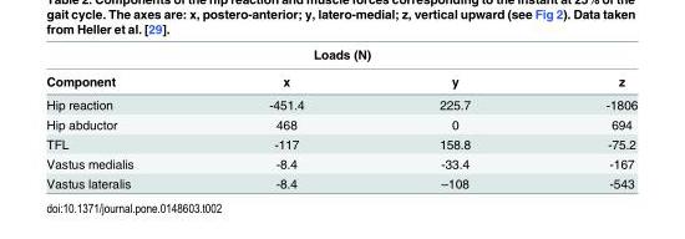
<table><thead><tr><td colspan="4">Loads (N)</td></tr><tr><td>Component</td><td>x</td><td>y</td><td>z</td></tr></thead><tbody><tr><td>Hip reaction</td><td>-451.4</td><td>225.7</td><td>-1806</td></tr><tr><td>Hip abductor</td><td>468</td><td>0</td><td>694</td></tr><tr><td>TFL</td><td>-117</td><td>158.8</td><td>-75.2</td></tr><tr><td>Vastus medialis</td><td>-8.4</td><td>-33.4</td><td>-167</td></tr><tr><td>Vastus lateralis</td><td>-8.4</td><td>–108</td><td>-543</td></tr></tbody></table>